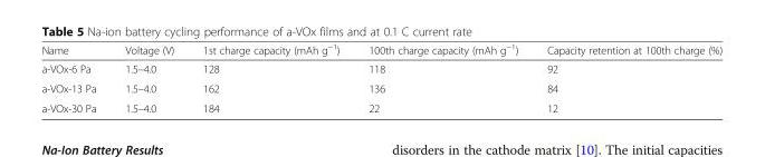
<table><thead><tr><td>Name</td><td>Voltage (V)</td><td>1st charge capacity (mAh g<sup>−1</sup>)</td><td>100th charge capacity (mAh g<sup>−1</sup>)</td><td>Capacity retention at 100th charge (%)</td></tr></thead><tbody><tr><td>a-VOx-6 Pa</td><td>1.5–4.0</td><td>128</td><td>118</td><td>92</td></tr><tr><td>a-VOx-13 Pa</td><td>1.5–4.0</td><td>162</td><td>136</td><td>84</td></tr><tr><td>a-VOx-30 Pa</td><td>1.5–4.0</td><td>184</td><td>22</td><td>12</td></tr></tbody></table>